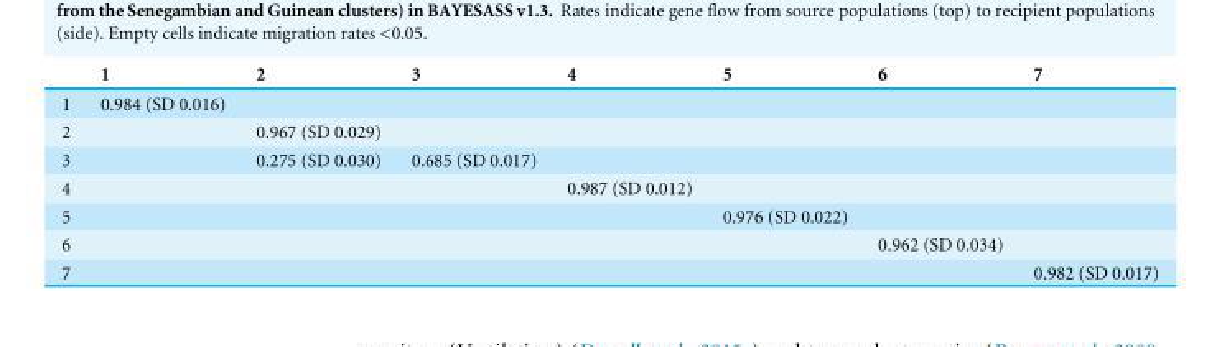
<table><thead><tr><td></td><td>1</td><td>2</td><td>3</td><td>4</td><td>5</td><td>6</td><td>7</td></tr></thead><tbody><tr><td>1</td><td>0.984 (SD 0.016)</td><td></td><td></td><td></td><td></td><td></td><td></td></tr><tr><td>2</td><td></td><td>0.967 (SD 0.029)</td><td></td><td></td><td></td><td></td><td></td></tr><tr><td>3</td><td></td><td>0.275 (SD 0.030)</td><td>0.685 (SD 0.017)</td><td></td><td></td><td></td><td></td></tr><tr><td>4</td><td></td><td></td><td></td><td>0.987 (SD 0.012)</td><td></td><td></td><td></td></tr><tr><td>5</td><td></td><td></td><td></td><td></td><td>0.976 (SD 0.022)</td><td></td><td></td></tr><tr><td>6</td><td></td><td></td><td></td><td></td><td></td><td>0.962 (SD 0.034)</td><td></td></tr><tr><td>7</td><td></td><td></td><td></td><td></td><td></td><td></td><td>0.982 (SD 0.017)</td></tr></tbody></table>